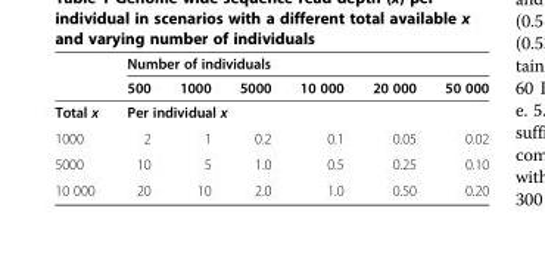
<table><thead><tr><td rowspan="2"></td><td colspan="6">Number of individuals</td></tr><tr><td>500</td><td>1000</td><td>5000</td><td>10 000</td><td>20 000</td><td>50 000</td></tr></thead><tbody><tr><td>Total x</td><td colspan="6">Per individual x</td></tr><tr><td>1000</td><td>2</td><td>1</td><td>0.2</td><td>0.1</td><td>0.05</td><td>0.02</td></tr><tr><td>5000</td><td>10</td><td>5</td><td>1.0</td><td>0.5</td><td>0.25</td><td>0.10</td></tr><tr><td>10 000</td><td>20</td><td>10</td><td>2.0</td><td>1.0</td><td>0.50</td><td>0.20</td></tr></tbody></table>